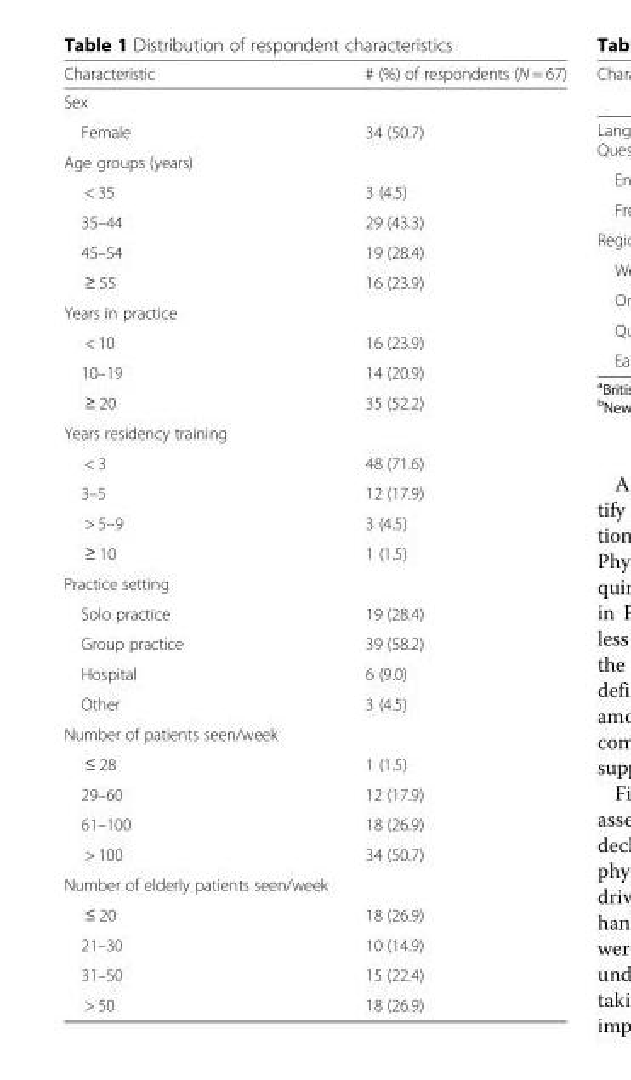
<table><thead><tr><td>Characteristic</td><td># (%) of respondents (N = 67)</td></tr></thead><tbody><tr><td colspan="2">Sex</td></tr><tr><td>Female</td><td>34 (50.7)</td></tr><tr><td colspan="2">Age groups (years)</td></tr><tr><td>&lt; 35</td><td>3 (4.5)</td></tr><tr><td>35–44</td><td>29 (43.3)</td></tr><tr><td>45–54</td><td>19 (28.4)</td></tr><tr><td>≥ 55</td><td>16 (23.9)</td></tr><tr><td colspan="2">Years in practice</td></tr><tr><td>&lt; 10</td><td>16 (23.9)</td></tr><tr><td>10–19</td><td>14 (20.9)</td></tr><tr><td>≥ 20</td><td>35 (52.2)</td></tr><tr><td colspan="2">Years residency training</td></tr><tr><td>&lt; 3</td><td>48 (71.6)</td></tr><tr><td>3–5</td><td>12 (17.9)</td></tr><tr><td>&gt; 5–9</td><td>3 (4.5)</td></tr><tr><td>≥ 10</td><td>1 (1.5)</td></tr><tr><td colspan="2">Practice setting</td></tr><tr><td>Solo practice</td><td>19 (28.4)</td></tr><tr><td>Group practice</td><td>39 (58.2)</td></tr><tr><td>Hospital</td><td>6 (9.0)</td></tr><tr><td>Other</td><td>3 (4.5)</td></tr><tr><td colspan="2">Number of patients seen/week</td></tr><tr><td>≤ 28</td><td>1 (1.5)</td></tr><tr><td>29–60</td><td>12 (17.9)</td></tr><tr><td>61–100</td><td>18 (26.9)</td></tr><tr><td>&gt; 100</td><td>34 (50.7)</td></tr><tr><td colspan="2">Number of elderly patients seen/week</td></tr><tr><td>≤ 20</td><td>18 (26.9)</td></tr><tr><td>21–30</td><td>10 (14.9)</td></tr><tr><td>31–50</td><td>15 (22.4)</td></tr><tr><td>&gt; 50</td><td>18 (26.9)</td></tr></tbody></table>